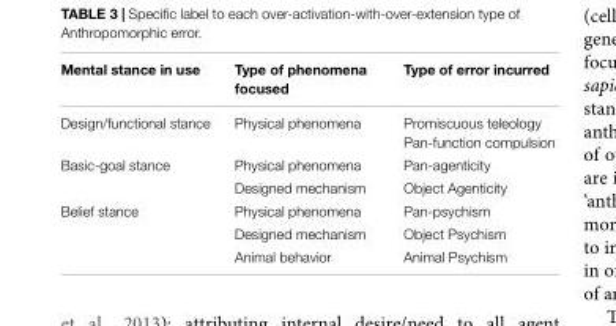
<table><thead><tr><td>Mental stance in use</td><td>Type of phenomena focused</td><td>Type of error incurred</td></tr></thead><tbody><tr><td>Design/functional stance</td><td>Physical phenomena</td><td>Promiscuous teleology Pan-function compulsion</td></tr><tr><td rowspan="2">Basic-goal stance</td><td>Physical phenomena</td><td>Pan-agenticity</td></tr><tr><td>Designed mechanism</td><td>Object Agenticity</td></tr><tr><td rowspan="3">Belief stance</td><td>Physical phenomena</td><td>Pan-psychism</td></tr><tr><td>Designed mechanism</td><td>Object Psychism</td></tr><tr><td>Animal behavior</td><td>Animal Psychism</td></tr></tbody></table>